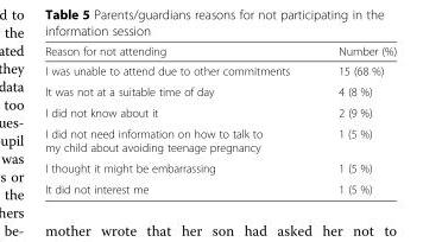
<table><thead><tr><td>Reason for not attending</td><td>Number (%)</td></tr></thead><tbody><tr><td>I was unable to attend due to other commitments</td><td>15 (68 %)</td></tr><tr><td>It was not at a suitable time of day</td><td>4 (8 %)</td></tr><tr><td>I did not know about it</td><td>2 (9 %)</td></tr><tr><td>I did not need information on how to talk to my child about avoiding teenage pregnancy</td><td>1 (5 %)</td></tr><tr><td>I thought it might be embarrassing</td><td>1 (5 %)</td></tr><tr><td>It did not interest me</td><td>1 (5 %)</td></tr></tbody></table>